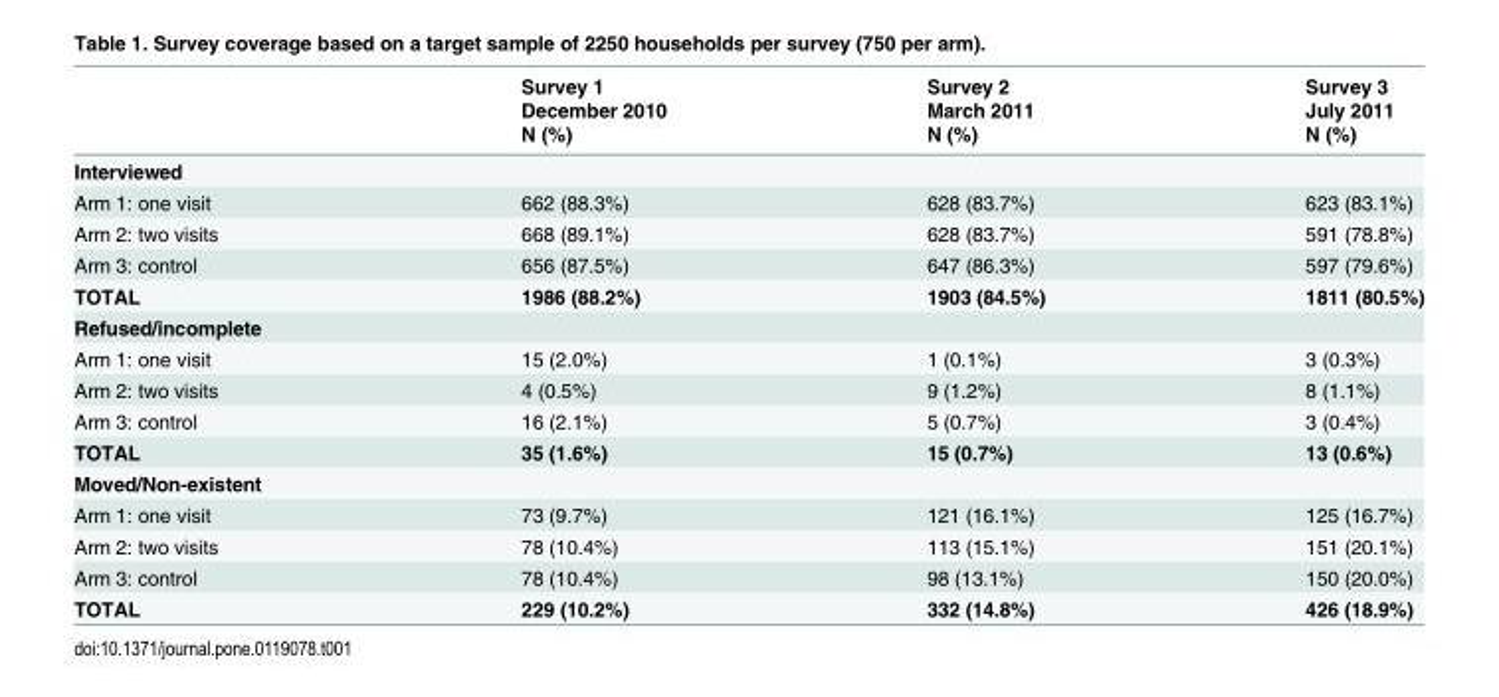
<table><thead><tr><td rowspan="3"></td><td rowspan="3">Survey 1 December 2010 N (%)</td><td rowspan="3">Survey 2 March 2011 N (%)</td><td rowspan="3">Survey 3 July 2011 N (%)</td></tr><tr></tr><tr></tr></thead><tbody><tr><td colspan="4">Interviewed</td></tr><tr><td>Arm 1: one visit</td><td>662 (88.3%)</td><td>628 (83.7%)</td><td>623 (83.1%)</td></tr><tr><td>Arm 2: two visits</td><td>668 (89.1%)</td><td>628 (83.7%)</td><td>591 (78.8%)</td></tr><tr><td>Arm 3: control</td><td>656 (87.5%)</td><td>647 (86.3%)</td><td>597 (79.6%)</td></tr><tr><td>TOTAL</td><td>1986 (88.2%)</td><td>1903 (84.5%)</td><td>1811 (80.5%)</td></tr><tr><td colspan="4">Refused/incomplete</td></tr><tr><td>Arm 1: one visit</td><td>15 (2.0%)</td><td>1 (0.1%)</td><td>3 (0.3%)</td></tr><tr><td>Arm 2: two visits</td><td>4 (0.5%)</td><td>9 (1.2%)</td><td>8 (1.1%)</td></tr><tr><td>Arm 3: control</td><td>16 (2.1%)</td><td>5 (0.7%)</td><td>3 (0.4%)</td></tr><tr><td>TOTAL</td><td>35 (1.6%)</td><td>15 (0.7%)</td><td>13 (0.6%)</td></tr><tr><td colspan="4">Moved/Non-existent</td></tr><tr><td>Arm 1: one visit</td><td>73 (9.7%)</td><td>121 (16.1%)</td><td>125 (16.7%)</td></tr><tr><td>Arm 2: two visits</td><td>78 (10.4%)</td><td>113 (15.1%)</td><td>151 (20.1%)</td></tr><tr><td>Arm 3: control</td><td>78 (10.4%)</td><td>98 (13.1%)</td><td>150 (20.0%)</td></tr><tr><td>TOTAL</td><td>229 (10.2%)</td><td>332 (14.8%)</td><td>426 (18.9%)</td></tr></tbody></table>